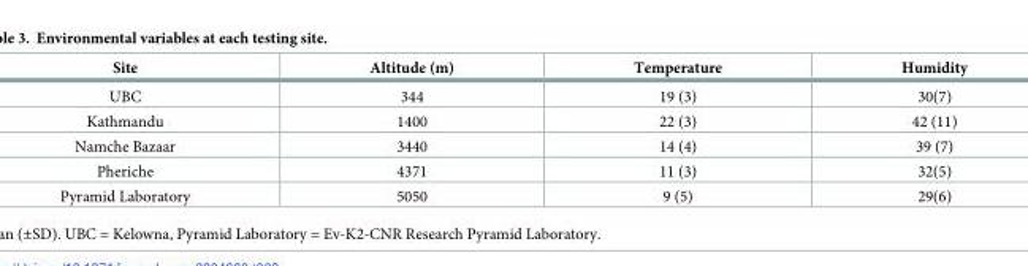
<table><thead><tr><td>Site</td><td>Altitude (m)</td><td>Temperature</td><td>Humidity</td></tr></thead><tbody><tr><td>UBC</td><td>344</td><td>19 (3)</td><td>30(7)</td></tr><tr><td>Kathmandu</td><td>1400</td><td>22 (3)</td><td>42 (11)</td></tr><tr><td>Namche Bazaar</td><td>3440</td><td>14 (4)</td><td>39 (7)</td></tr><tr><td>Pheriche</td><td>4371</td><td>11 (3)</td><td>32(5)</td></tr><tr><td>Pyramid Laboratory</td><td>5050</td><td>9 (5)</td><td>29(6)</td></tr></tbody></table>